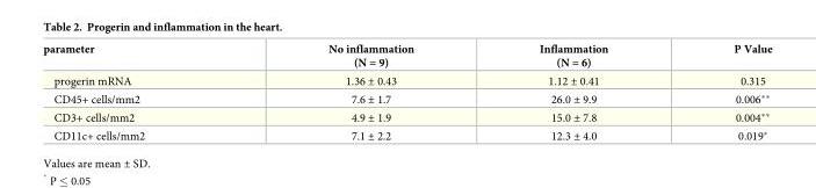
<table><thead><tr><td>parameter</td><td>No inflammation (N = 9)</td><td>Inflammation (N = 6)</td><td>P Value</td></tr></thead><tbody><tr><td>progerin mRNA</td><td>1.36 ± 0.43</td><td>1.12 ± 0.41</td><td>0.315</td></tr><tr><td>CD45+ cells/mm2</td><td>7.6 ± 1.7</td><td>26.0 ± 9.9</td><td>0.006**</td></tr><tr><td>CD3+ cells/mm2</td><td>4.9 ± 1.9</td><td>15.0 ± 7.8</td><td>0.004**</td></tr><tr><td>CD11c+ cells/mm2</td><td>7.1 ± 2.2</td><td>12.3 ± 4.0</td><td>0.019*</td></tr></tbody></table>